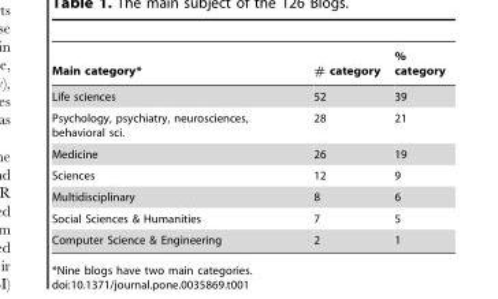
<table><thead><tr><td>Main category*</td><td># category</td><td>% category</td></tr></thead><tbody><tr><td>Life sciences</td><td>52</td><td>39</td></tr><tr><td>Psychology, psychiatry, neurosciences, behavioral sci.</td><td>28</td><td>21</td></tr><tr><td>Medicine</td><td>26</td><td>19</td></tr><tr><td>Sciences</td><td>12</td><td>9</td></tr><tr><td>Multidisciplinary</td><td>8</td><td>6</td></tr><tr><td>Social Sciences &amp; Humanities</td><td>7</td><td>5</td></tr><tr><td>Computer Science &amp; Engineering</td><td>2</td><td>1</td></tr></tbody></table>